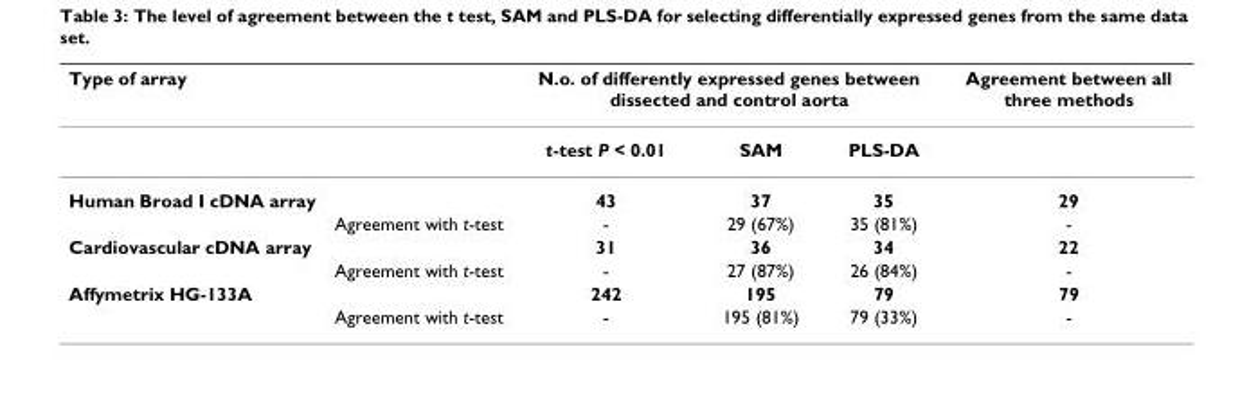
<table><thead><tr><td rowspan="2">Type of array</td><td rowspan="2"></td><td colspan="3">N.o. of differently expressed genes between dissected and control aorta</td><td rowspan="2">Agreement between all three methods</td></tr><tr><td>t-test P &lt; 0.01</td><td>SAM</td><td>PLS-DA</td></tr></thead><tbody><tr><td rowspan="2">Human Broad I cDNA array</td><td></td><td>43</td><td>37</td><td>35</td><td>29</td></tr><tr><td>Agreement with t-test</td><td>-</td><td>29 (67%)</td><td>35 (81%)</td><td>-</td></tr><tr><td rowspan="2">Cardiovascular cDNA array</td><td></td><td>31</td><td>36</td><td>34</td><td>22</td></tr><tr><td>Agreement with t-test</td><td>-</td><td>27 (87%)</td><td>26 (84%)</td><td>-</td></tr><tr><td rowspan="2">Affymetrix HG-133A</td><td></td><td>242</td><td>195</td><td>79</td><td>79</td></tr><tr><td>Agreement with t-test</td><td>-</td><td>195 (81%)</td><td>79 (33%)</td><td>-</td></tr></tbody></table>